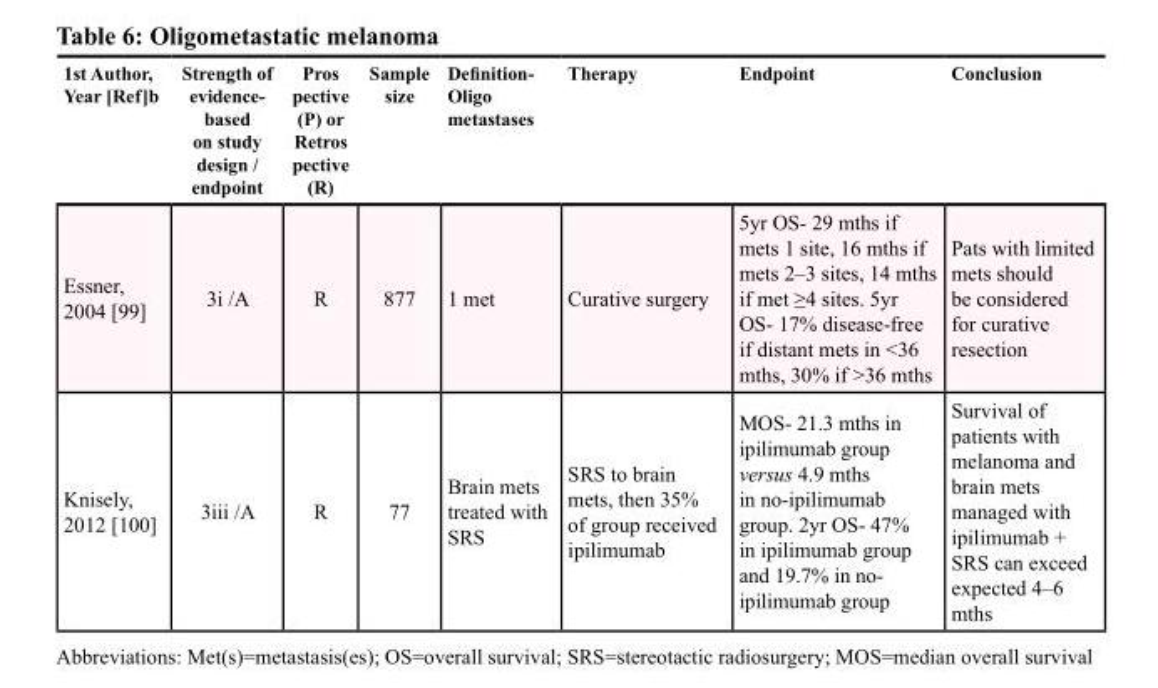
<table><thead><tr><td>1st Author, Year [Ref]b</td><td>Strength of evidence based on study design / endpoint</td><td>Pros pective (P) or Retros pective (R)</td><td>Sample size</td><td>Definition- Oligo metastases</td><td>Therapy</td><td>Endpoint</td><td>Conclusion</td></tr></thead><tbody><tr><td>Essner, 2004 [99]</td><td>3i /A</td><td>R</td><td>877</td><td>1 met</td><td>Curative surgery</td><td>5yr OS- 29 mths if mets 1 site, 16 mths if mets 2–3 sites, 14 mths if met ≥4 sites. 5yr OS- 17% disease-free if distant mets in &lt;36 mths, 30% if &gt;36 mths</td><td>Pats with limited mets should be considered for curative resection</td></tr><tr><td>Knisely, 2012 [100]</td><td>3iii /A</td><td>R</td><td>77</td><td>Brain mets treated with SRS</td><td>SRS to brain mets, then 35% of group received ipilimumab</td><td>MOS- 21.3 mths in ipilimumab group versus 4.9 mths in no-ipilimumab group. 2yr OS- 47% in ipilimumab group and 19.7% in no- ipilimumab group</td><td>Survival of patients with melanoma and brain mets managed with ipilimumab + SRS can exceed expected 4–6 mths</td></tr></tbody></table>